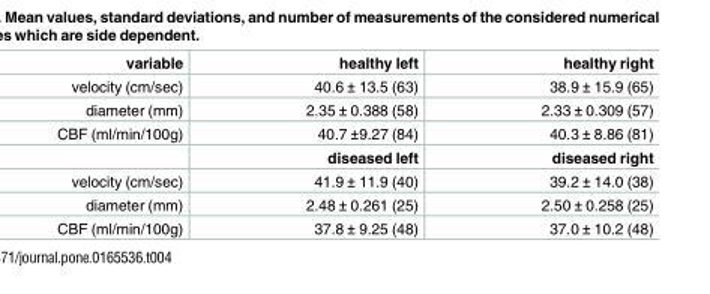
<table><tbody><tr><td>variable</td><td>healthy left</td><td>healthy right</td></tr><tr><td>velocity (cm/sec)</td><td>40.6 ± 13.5 (63)</td><td>38.9 ± 15.9 (65)</td></tr><tr><td>diameter (mm)</td><td>2.35 ± 0.388 (58)</td><td>2.33 ± 0.309 (57)</td></tr><tr><td rowspan="2">CBF (ml/min/100g)</td><td>40.7 ±9.27 (84)</td><td>40.3 ± 8.86 (81)</td></tr><tr><td>diseased left</td><td>diseased right</td></tr><tr><td>velocity (cm/sec)</td><td>41.9 ± 11.9 (40)</td><td>39.2 ± 14.0 (38)</td></tr><tr><td>diameter (mm)</td><td>2.48 ± 0.261 (25)</td><td>2.50 ± 0.258 (25)</td></tr><tr><td>CBF (ml/min/100g)</td><td>37.8 ± 9.25 (48)</td><td>37.0 ± 10.2 (48)</td></tr></tbody></table>